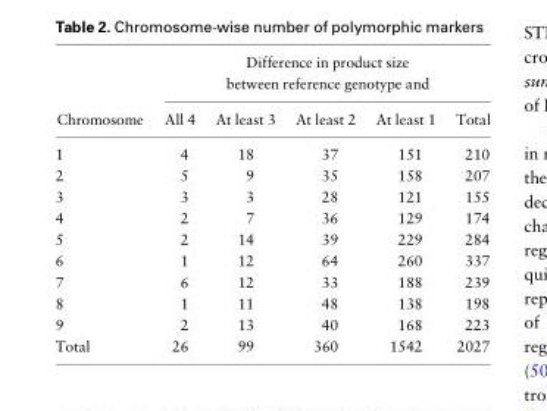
<table><thead><tr><td rowspan="2">Chromosome</td><td colspan="5">Difference in product size between reference genotype and</td></tr><tr><td>All 4</td><td>At least 3</td><td>At least 2</td><td>At least 1</td><td>Total</td></tr></thead><tbody><tr><td>1</td><td>4</td><td>18</td><td>37</td><td>151</td><td>210</td></tr><tr><td>2</td><td>5</td><td>9</td><td>35</td><td>158</td><td>207</td></tr><tr><td>3</td><td>3</td><td>3</td><td>28</td><td>121</td><td>155</td></tr><tr><td>4</td><td>2</td><td>7</td><td>36</td><td>129</td><td>174</td></tr><tr><td>5</td><td>2</td><td>14</td><td>39</td><td>229</td><td>284</td></tr><tr><td>6</td><td>1</td><td>12</td><td>64</td><td>260</td><td>337</td></tr><tr><td>7</td><td>6</td><td>12</td><td>33</td><td>188</td><td>239</td></tr><tr><td>8</td><td>1</td><td>11</td><td>48</td><td>138</td><td>198</td></tr><tr><td>9</td><td>2</td><td>13</td><td>40</td><td>168</td><td>223</td></tr><tr><td>Total</td><td>26</td><td>99</td><td>360</td><td>1542</td><td>2027</td></tr></tbody></table>